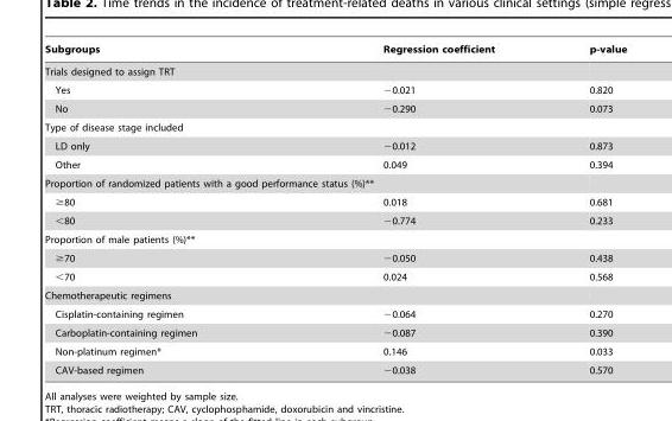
<table><thead><tr><td>Subgroups</td><td>Regression coefficient</td><td>p-value</td></tr></thead><tbody><tr><td colspan="3">Trials designed to assign TRT</td></tr><tr><td>Yes</td><td>−0.021</td><td>0.820</td></tr><tr><td>No</td><td>−0.290</td><td>0.073</td></tr><tr><td colspan="3">Type of disease stage included</td></tr><tr><td>LD only</td><td>−0.012</td><td>0.873</td></tr><tr><td>Other</td><td>0.049</td><td>0.394</td></tr><tr><td colspan="3">Proportion of randomized patients with a good performance status (%)**</td></tr><tr><td>≥80</td><td>0.018</td><td>0.681</td></tr><tr><td>&lt;80</td><td>−0.774</td><td>0.233</td></tr><tr><td colspan="3">Proportion of male patients (%)**</td></tr><tr><td>≥70</td><td>−0.050</td><td>0.438</td></tr><tr><td>&lt;70</td><td>0.024</td><td>0.568</td></tr><tr><td colspan="3">Chemotherapeutic regimens</td></tr><tr><td>Cisplatin-containing regimen</td><td>−0.064</td><td>0.270</td></tr><tr><td>Carboplatin-containing regimen</td><td>−0.087</td><td>0.390</td></tr><tr><td>Non-platinum regimen*</td><td>0.146</td><td>0.033</td></tr><tr><td>CAV-based regimen</td><td>−0.038</td><td>0.570</td></tr></tbody></table>